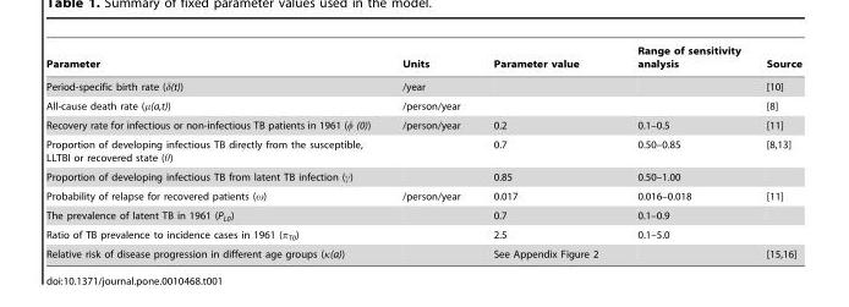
<table><thead><tr><td>Parameter</td><td>Units</td><td>Parameter value</td><td>Range of sensitivity analysis</td><td>Source</td></tr></thead><tbody><tr><td>Period-specific birth rate (δ(t))</td><td>/year</td><td></td><td></td><td>[10]</td></tr><tr><td>All-cause death rate (μ(a,t))</td><td>/person/year</td><td></td><td></td><td>[8]</td></tr><tr><td>Recovery rate for infectious or non-infectious TB patients in 1961 (φ (0))</td><td>/person/year</td><td>0.2</td><td>0.1–0.5</td><td>[11]</td></tr><tr><td>Proportion of developing infectious TB directly from the susceptible, LLTBI or recovered state (θ)</td><td></td><td>0.7</td><td>0.50–0.85</td><td>[8,13]</td></tr><tr><td>Proportion of developing infectious TB from latent TB infection (γ)</td><td></td><td>0.85</td><td>0.50–1.00</td><td></td></tr><tr><td>Probability of relapse for recovered patients (ω)</td><td>/person/year</td><td>0.017</td><td>0.016–0.018</td><td>[11]</td></tr><tr><td>The prevalence of latent TB in 1961 (P<sub>L0</sub>)</td><td></td><td>0.7</td><td>0.1–0.9</td><td></td></tr><tr><td>Ratio of TB prevalence to incidence cases in 1961 (π<sub>T0</sub>)</td><td></td><td>2.5</td><td>0.1–5.0</td><td></td></tr><tr><td>Relative risk of disease progression in different age groups (κ(a))</td><td></td><td>See Appendix Figure 2</td><td></td><td>[15,16]</td></tr></tbody></table>